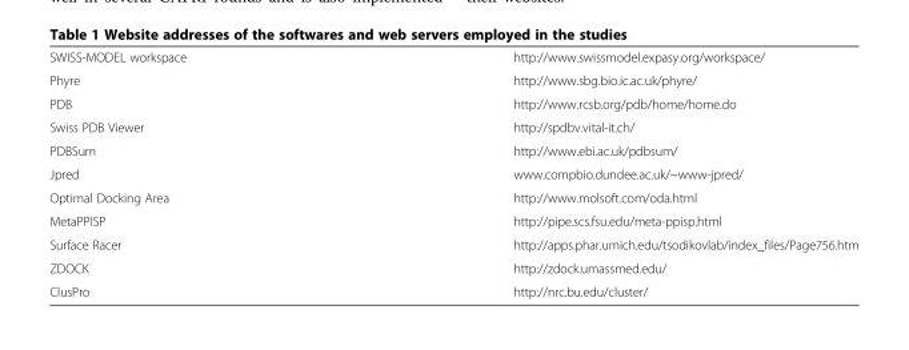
<table><tbody><tr><td>SWISS-MODEL workspace</td><td>http://www.swissmodel.expasy.org/workspace/</td></tr><tr><td>Phyre</td><td>http://www.sbg.bio.ic.ac.uk/phyre/</td></tr><tr><td>PDB</td><td>http://www.rcsb.org/pdb/home/home.do</td></tr><tr><td>Swiss PDB Viewer</td><td>http://spdbv.vital-it.ch/</td></tr><tr><td>PDBSum</td><td>http://www.ebi.ac.uk/pdbsum/</td></tr><tr><td>Jpred</td><td>www.compbio.dundee.ac.uk/~www-jpred/</td></tr><tr><td>Optimal Docking Area</td><td>http://www.molsoft.com/oda.html</td></tr><tr><td>MetaPPISP</td><td>http://pipe.scs.fsu.edu/meta-ppisp.html</td></tr><tr><td>Surface Racer</td><td>http://apps.phar.umich.edu/tsodikovlab/index_files/Page756.htm</td></tr><tr><td>ZDOCK</td><td>http://zdock.umassmed.edu/</td></tr><tr><td>ClusPro</td><td>http://nrc.bu.edu/cluster/</td></tr></tbody></table>